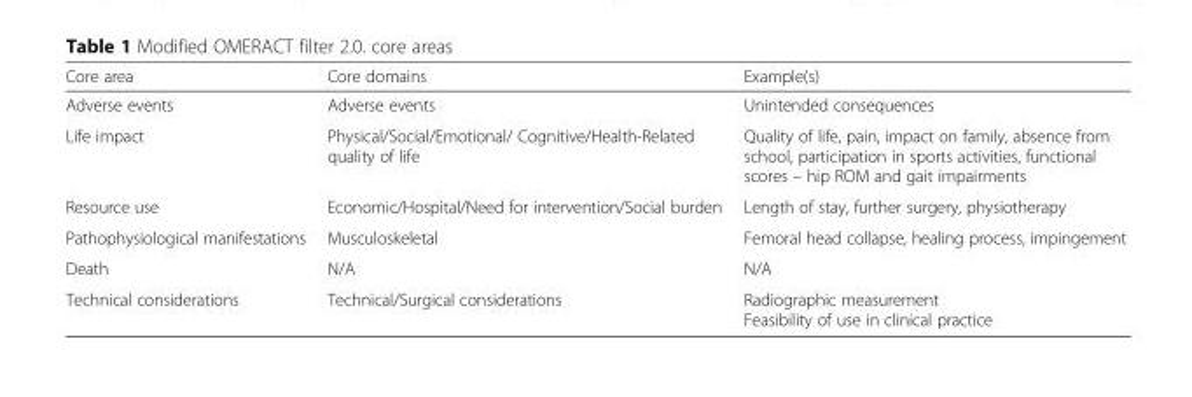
<table><thead><tr><td>Core area</td><td>Core domains</td><td>Example(s)</td></tr></thead><tbody><tr><td>Adverse events</td><td>Adverse events</td><td>Unintended consequences</td></tr><tr><td>Life impact</td><td>Physical/Social/Emotional/ Cognitive/Health-Related quality of life</td><td>Quality of life, pain, impact on family, absence from school, participation in sports activities, functional scores – hip ROM and gait impairments</td></tr><tr><td>Resource use</td><td>Economic/Hospital/Need for intervention/Social burden</td><td>Length of stay, further surgery, physiotherapy</td></tr><tr><td>Pathophysiological manifestations</td><td>Musculoskeletal</td><td>Femoral head collapse, healing process, impingement</td></tr><tr><td>Death</td><td>N/A</td><td>N/A</td></tr><tr><td>Technical considerations</td><td>Technical/Surgical considerations</td><td>Radiographic measurement Feasibility of use in clinical practice</td></tr></tbody></table>